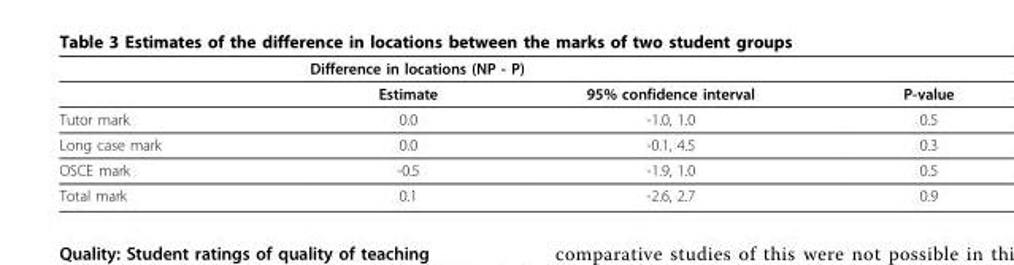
<table><thead><tr><td rowspan="2"></td><td colspan="2">Difference in locations (NP - P)</td><td rowspan="2">P-value</td></tr><tr><td>Estimate</td><td>95% confidence interval</td></tr></thead><tbody><tr><td>Tutor mark</td><td>0.0</td><td>-1.0, 1.0</td><td>0.5</td></tr><tr><td>Long case mark</td><td>0.0</td><td>-0.1, 4.5</td><td>0.3</td></tr><tr><td>OSCE mark</td><td>-0.5</td><td>-1.9, 1.0</td><td>0.5</td></tr><tr><td>Total mark</td><td>0.1</td><td>-2.6, 2.7</td><td>0.9</td></tr></tbody></table>